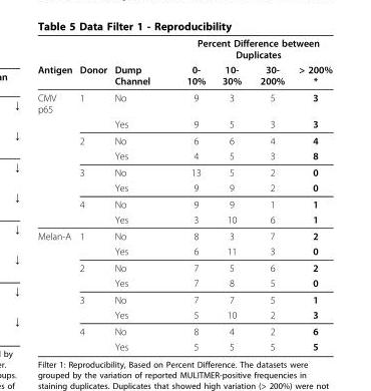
<table><thead><tr><td rowspan="2">Antigen</td><td rowspan="2">Donor</td><td rowspan="2">Dump Channel</td><td colspan="4">Percent Difference between Duplicates</td></tr><tr><td>0- 10%</td><td>10- 30%</td><td>30- 200%</td><td>&gt; 200% *</td></tr></thead><tbody><tr><td rowspan="8">CMV p65</td><td>1</td><td>No</td><td>9</td><td>3</td><td>5</td><td>3</td></tr><tr><td></td><td>Yes</td><td>9</td><td>5</td><td>3</td><td>3</td></tr><tr><td>2</td><td>No</td><td>6</td><td>6</td><td>4</td><td>4</td></tr><tr><td></td><td>Yes</td><td>4</td><td>5</td><td>3</td><td>8</td></tr><tr><td>3</td><td>No</td><td>13</td><td>5</td><td>2</td><td>0</td></tr><tr><td></td><td>Yes</td><td>9</td><td>9</td><td>2</td><td>0</td></tr><tr><td>4</td><td>No</td><td>9</td><td>9</td><td>1</td><td>1</td></tr><tr><td></td><td>Yes</td><td>3</td><td>10</td><td>6</td><td>1</td></tr><tr><td rowspan="8">Melan-A</td><td>1</td><td>No</td><td>8</td><td>3</td><td>7</td><td>2</td></tr><tr><td></td><td>Yes</td><td>6</td><td>11</td><td>3</td><td>0</td></tr><tr><td>2</td><td>No</td><td>7</td><td>5</td><td>6</td><td>2</td></tr><tr><td></td><td>Yes</td><td>7</td><td>8</td><td>5</td><td>0</td></tr><tr><td>3</td><td>No</td><td>7</td><td>7</td><td>5</td><td>1</td></tr><tr><td></td><td>Yes</td><td>5</td><td>10</td><td>2</td><td>3</td></tr><tr><td>4</td><td>No</td><td>8</td><td>4</td><td>2</td><td>6</td></tr><tr><td></td><td>Yes</td><td>5</td><td>5</td><td>5</td><td>5</td></tr></tbody></table>